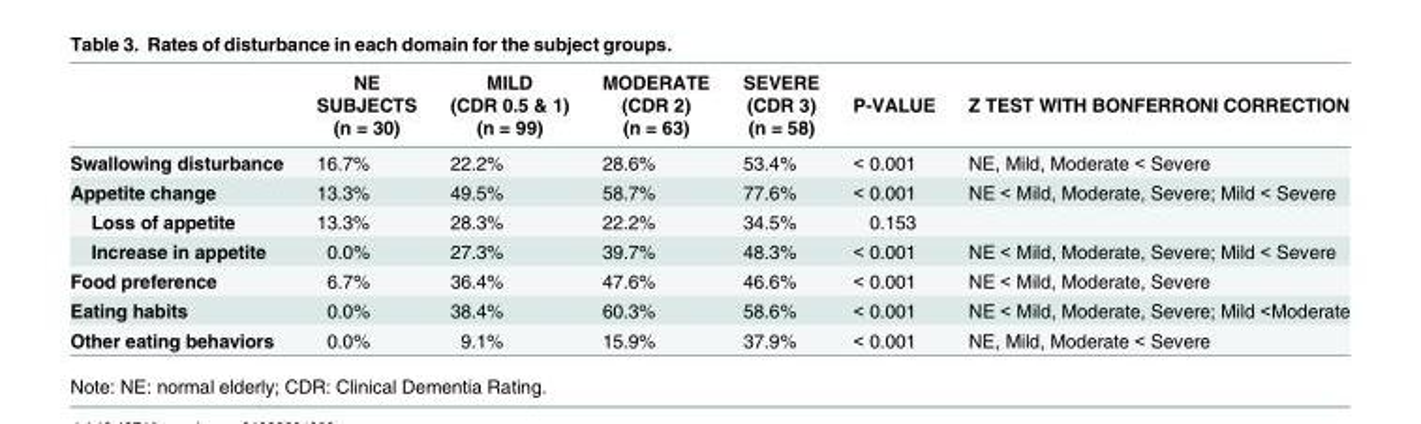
<table><thead><tr><td rowspan="3"></td><td rowspan="3">NE SUBJECTS (n = 30)</td><td rowspan="3">MILD (CDR 0.5 &amp; 1) (n = 99)</td><td rowspan="3">MODERATE (CDR 2) (n = 63)</td><td rowspan="3">SEVERE (CDR 3) (n = 58)</td><td rowspan="3">P-VALUE</td><td rowspan="3">Z TEST WITH BONFERRONI CORRECTION</td></tr><tr></tr><tr></tr></thead><tbody><tr><td>Swallowing disturbance</td><td>16.7%</td><td>22.2%</td><td>28.6%</td><td>53.4%</td><td>&lt; 0.001</td><td>NE, Mild, Moderate &lt; Severe</td></tr><tr><td>Appetite change</td><td>13.3%</td><td>49.5%</td><td>58.7%</td><td>77.6%</td><td>&lt; 0.001</td><td>NE &lt; Mild, Moderate, Severe; Mild &lt; Severe</td></tr><tr><td>Loss of appetite</td><td>13.3%</td><td>28.3%</td><td>22.2%</td><td>34.5%</td><td>0.153</td><td></td></tr><tr><td>Increase in appetite</td><td>0.0%</td><td>27.3%</td><td>39.7%</td><td>48.3%</td><td>&lt; 0.001</td><td>NE &lt; Mild, Moderate, Severe; Mild &lt; Severe</td></tr><tr><td>Food preference</td><td>6.7%</td><td>36.4%</td><td>47.6%</td><td>46.6%</td><td>&lt; 0.001</td><td>NE &lt; Mild, Moderate, Severe</td></tr><tr><td>Eating habits</td><td>0.0%</td><td>38.4%</td><td>60.3%</td><td>58.6%</td><td>&lt; 0.001</td><td>NE &lt; Mild, Moderate, Severe; Mild &lt;Moderate</td></tr><tr><td>Other eating behaviors</td><td>0.0%</td><td>9.1%</td><td>15.9%</td><td>37.9%</td><td>&lt; 0.001</td><td>NE, Mild, Moderate &lt; Severe</td></tr></tbody></table>